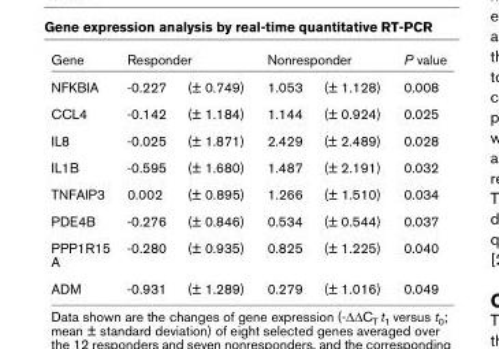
<table><thead><tr><td rowspan="2">Gene NFKBIA</td><td colspan="2">Responder</td><td colspan="2">Nonresponder</td><td rowspan="2">P value 0.008</td></tr><tr><td>-0.227</td><td>(± 0.749)</td><td>1.053</td><td>(± 1.128)</td></tr></thead><tbody><tr><td>CCL4</td><td>-0.142</td><td>(± 1.184)</td><td>1.144</td><td>(± 0.924)</td><td>0.025</td></tr><tr><td>IL8</td><td>-0.025</td><td>(± 1.871)</td><td>2.429</td><td>(± 2.489)</td><td>0.028</td></tr><tr><td>IL1B</td><td>-0.595</td><td>(± 1.680)</td><td>1.487</td><td>(± 2.191)</td><td>0.032</td></tr><tr><td>TNFAIP3</td><td>0.002</td><td>(± 0.895)</td><td>1.266</td><td>(± 1.510)</td><td>0.034</td></tr><tr><td>PDE4B</td><td>-0.276</td><td>(± 0.846)</td><td>0.534</td><td>(± 0.544)</td><td>0.037</td></tr><tr><td>PPP1R15 A</td><td>-0.280</td><td>(± 0.935)</td><td>0.825</td><td>(± 1.225)</td><td>0.040</td></tr><tr><td>ADM</td><td>-0.931</td><td>(± 1.289)</td><td>0.279</td><td>(± 1.016)</td><td>0.049</td></tr></tbody></table>